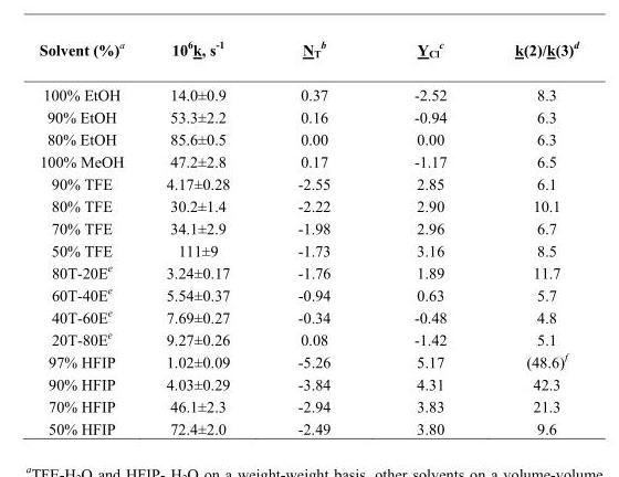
<table><thead><tr><td>Solvent (%)a</td><td>10<sup>6</sup>k, s<sup>-1</sup></td><td>NT b</td><td>Y<sub>Cl</sub> c</td><td>k(2)/k(3)d</td></tr></thead><tbody><tr><td>100% EtOH</td><td>14.0±0.9</td><td>0.37</td><td>-2.52</td><td>8.3</td></tr><tr><td>90% EtOH</td><td>53.3±2.2</td><td>0.16</td><td>-0.94</td><td>6.3</td></tr><tr><td>80% EtOH</td><td>85.6±0.5</td><td>0.00</td><td>0.00</td><td>6.3</td></tr><tr><td>100% MeOH</td><td>47.2±2.8</td><td>0.17</td><td>-1.17</td><td>6.5</td></tr><tr><td>90% TFE</td><td>4.17±0.28</td><td>-2.55</td><td>2.85</td><td>6.1</td></tr><tr><td>80% TFE</td><td>30.2±1.4</td><td>-2.22</td><td>2.90</td><td>10.1</td></tr><tr><td>70% TFE</td><td>34.1±2.9</td><td>-1.98</td><td>2.96</td><td>6.7</td></tr><tr><td>50% TFE</td><td>111±9</td><td>-1.73</td><td>3.16</td><td>8.5</td></tr><tr><td>80T-20Ee</td><td>3.24±0.17</td><td>-1.76</td><td>1.89</td><td>11.7</td></tr><tr><td>60T-40Ee</td><td>5.54±0.37</td><td>-0.94</td><td>0.63</td><td>5.7</td></tr><tr><td>40T-60Ee</td><td>7.69±0.27</td><td>-0.34</td><td>-0.48</td><td>4.8</td></tr><tr><td>20T-80Ee</td><td>9.27±0.26</td><td>0.08</td><td>-1.42</td><td>5.1</td></tr><tr><td>97% HFIP</td><td>1.02±0.09</td><td>-5.26</td><td>5.17</td><td>(48.6)f</td></tr><tr><td>90% HFIP</td><td>4.03±0.29</td><td>-3.84</td><td>4.31</td><td>42.3</td></tr><tr><td>70% HFIP</td><td>46.1±2.3</td><td>-2.94</td><td>3.83</td><td>21.3</td></tr><tr><td>50% HFIP</td><td>72.4±2.0</td><td>-2.49</td><td>3.80</td><td>9.6</td></tr></tbody></table>